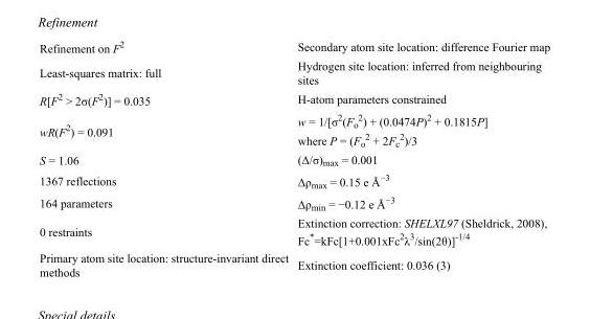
<table><tbody><tr><td>Refinement on F<sup>2</sup></td><td>Secondary atom site location: difference Fourier map</td></tr><tr><td>Least-squares matrix: full</td><td>Hydrogen site location: inferred from neighbouring sites</td></tr><tr><td>R[F<sup>2</sup> &gt; 2σ(F<sup>2</sup>)] = 0.035</td><td>H-atom parameters constrained</td></tr><tr><td>wR(F<sup>2</sup>) = 0.091</td><td>w = 1/[σ<sup>2</sup>(F<sub>o</sub> <sup>2</sup>) + (0.0474P)<sup>2</sup> + 0.1815P] where P = (F<sub>o</sub> <sup>2</sup> + 2F<sub>c</sub> <sup>2</sup>)/3</td></tr><tr><td>S = 1.06</td><td>(Δ/σ)<sub>max</sub> = 0.001</td></tr><tr><td>1367 reflections</td><td>Δρ<sub>max</sub> = 0.15 e Å<sup>−3</sup></td></tr><tr><td>164 parameters</td><td>Δρ<sub>min</sub> = −0.12 e Å<sup>−3</sup></td></tr><tr><td>0 restraints</td><td>Extinction correction: SHELXL97 (Sheldrick, 2008), Fc*=kFc[1+0.001xFc<sup>2</sup>λ<sup>3</sup>/sin(2θ)]<sup>-1/4</sup></td></tr><tr><td>Primary atom site location: structure-invariant direct methods</td><td>Extinction coefficient: 0.036 (3)</td></tr></tbody></table>